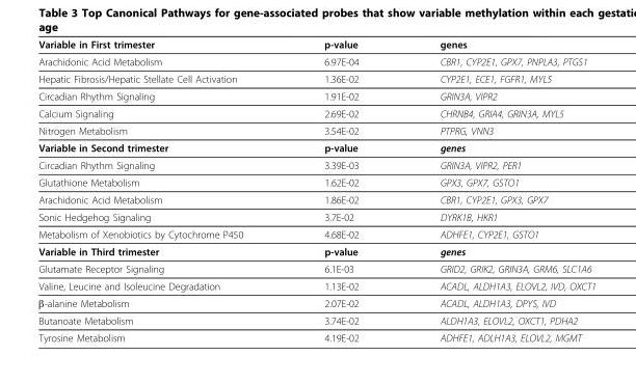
<table><thead><tr><td>Variable in First trimester</td><td>p-value</td><td>genes</td></tr></thead><tbody><tr><td>Arachidonic Acid Metabolism</td><td>6.97E-04</td><td>CBR1, CYP2E1, GPX7, PNPLA3, PTGS1</td></tr><tr><td>Hepatic Fibrosis/Hepatic Stellate Cell Activation</td><td>1.36E-02</td><td>CYP2E1, ECE1, FGFR1, MYL5</td></tr><tr><td>Circadian Rhythm Signaling</td><td>1.91E-02</td><td>GRIN3A, VIPR2</td></tr><tr><td>Calcium Signaling</td><td>2.69E-02</td><td>CHRNB4, GRIA4, GRIN3A, MYL5</td></tr><tr><td>Nitrogen Metabolism</td><td>3.54E-02</td><td>PTPRG, VNN3</td></tr><tr><td>Variable in Second trimester</td><td>p-value</td><td>genes</td></tr><tr><td>Circadian Rhythm Signaling</td><td>3.39E-03</td><td>GRIN3A, VIPR2, PER1</td></tr><tr><td>Glutathione Metabolism</td><td>1.62E-02</td><td>GPX3, GPX7, GSTO1</td></tr><tr><td>Arachidonic Acid Metabolism</td><td>1.86E-02</td><td>CBR1, CYP2E1, GPX3, GPX7</td></tr><tr><td>Sonic Hedgehog Signaling</td><td>3.7E-02</td><td>DYRK1B, HKR1</td></tr><tr><td>Metabolism of Xenobiotics by Cytochrome P450</td><td>4.68E-02</td><td>ADHFE1, CYP2E1, GSTO1</td></tr><tr><td>Variable in Third trimester</td><td>p-value</td><td>genes</td></tr><tr><td>Glutamate Receptor Signaling</td><td>6.1E-03</td><td>GRID2, GRIK2, GRIN3A, GRM6, SLC1A6</td></tr><tr><td>Valine, Leucine and Isoleucine Degradation</td><td>1.13E-02</td><td>ACADL, ALDH1A3, ELOVL2, IVD, OXCT1</td></tr><tr><td>β-alanine Metabolism</td><td>2.07E-02</td><td>ACADL, ALDH1A3, DPYS, IVD</td></tr><tr><td>Butanoate Metabolism</td><td>3.74E-02</td><td>ALDH1A3, ELOVL2, OXCT1, PDHA2</td></tr><tr><td>Tyrosine Metabolism</td><td>4.19E-02</td><td>ADHFE1, ADLH1A3, ELOVL2, MGMT</td></tr></tbody></table>